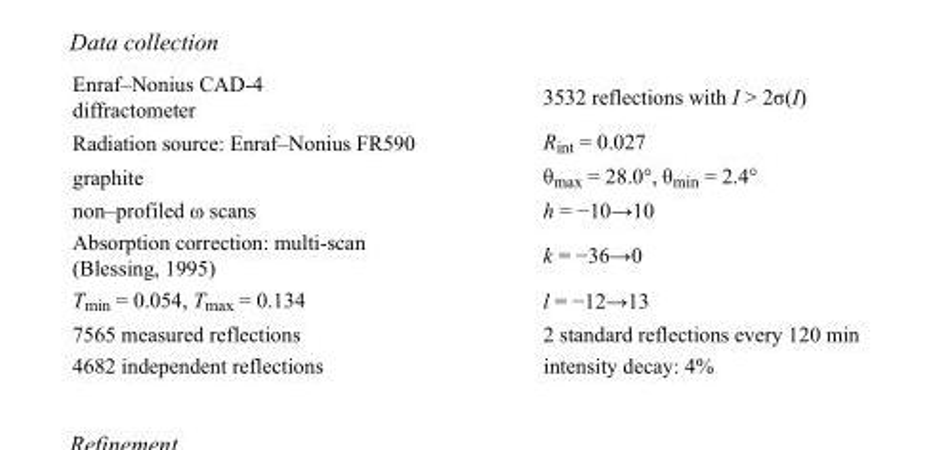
<table><tbody><tr><td>Enraf–Nonius CAD-4 diffractometer</td><td>3532 reflections with I &gt; 2σ(I)</td></tr><tr><td>Radiation source: Enraf–Nonius FR590</td><td>R<sub>int</sub> = 0.027</td></tr><tr><td>graphite</td><td>θ<sub>max</sub> = 28.0°, θ<sub>min</sub> = 2.4°</td></tr><tr><td>non–profiled ω scans</td><td>h = −10→10</td></tr><tr><td>Absorption correction: multi-scan (Blessing, 1995)</td><td>k = −36→0</td></tr><tr><td>T<sub>min</sub> = 0.054, T<sub>max</sub> = 0.134</td><td>l = −12→13</td></tr><tr><td>7565 measured reflections</td><td>2 standard reflections every 120 min</td></tr><tr><td>4682 independent reflections</td><td>intensity decay: 4%</td></tr></tbody></table>